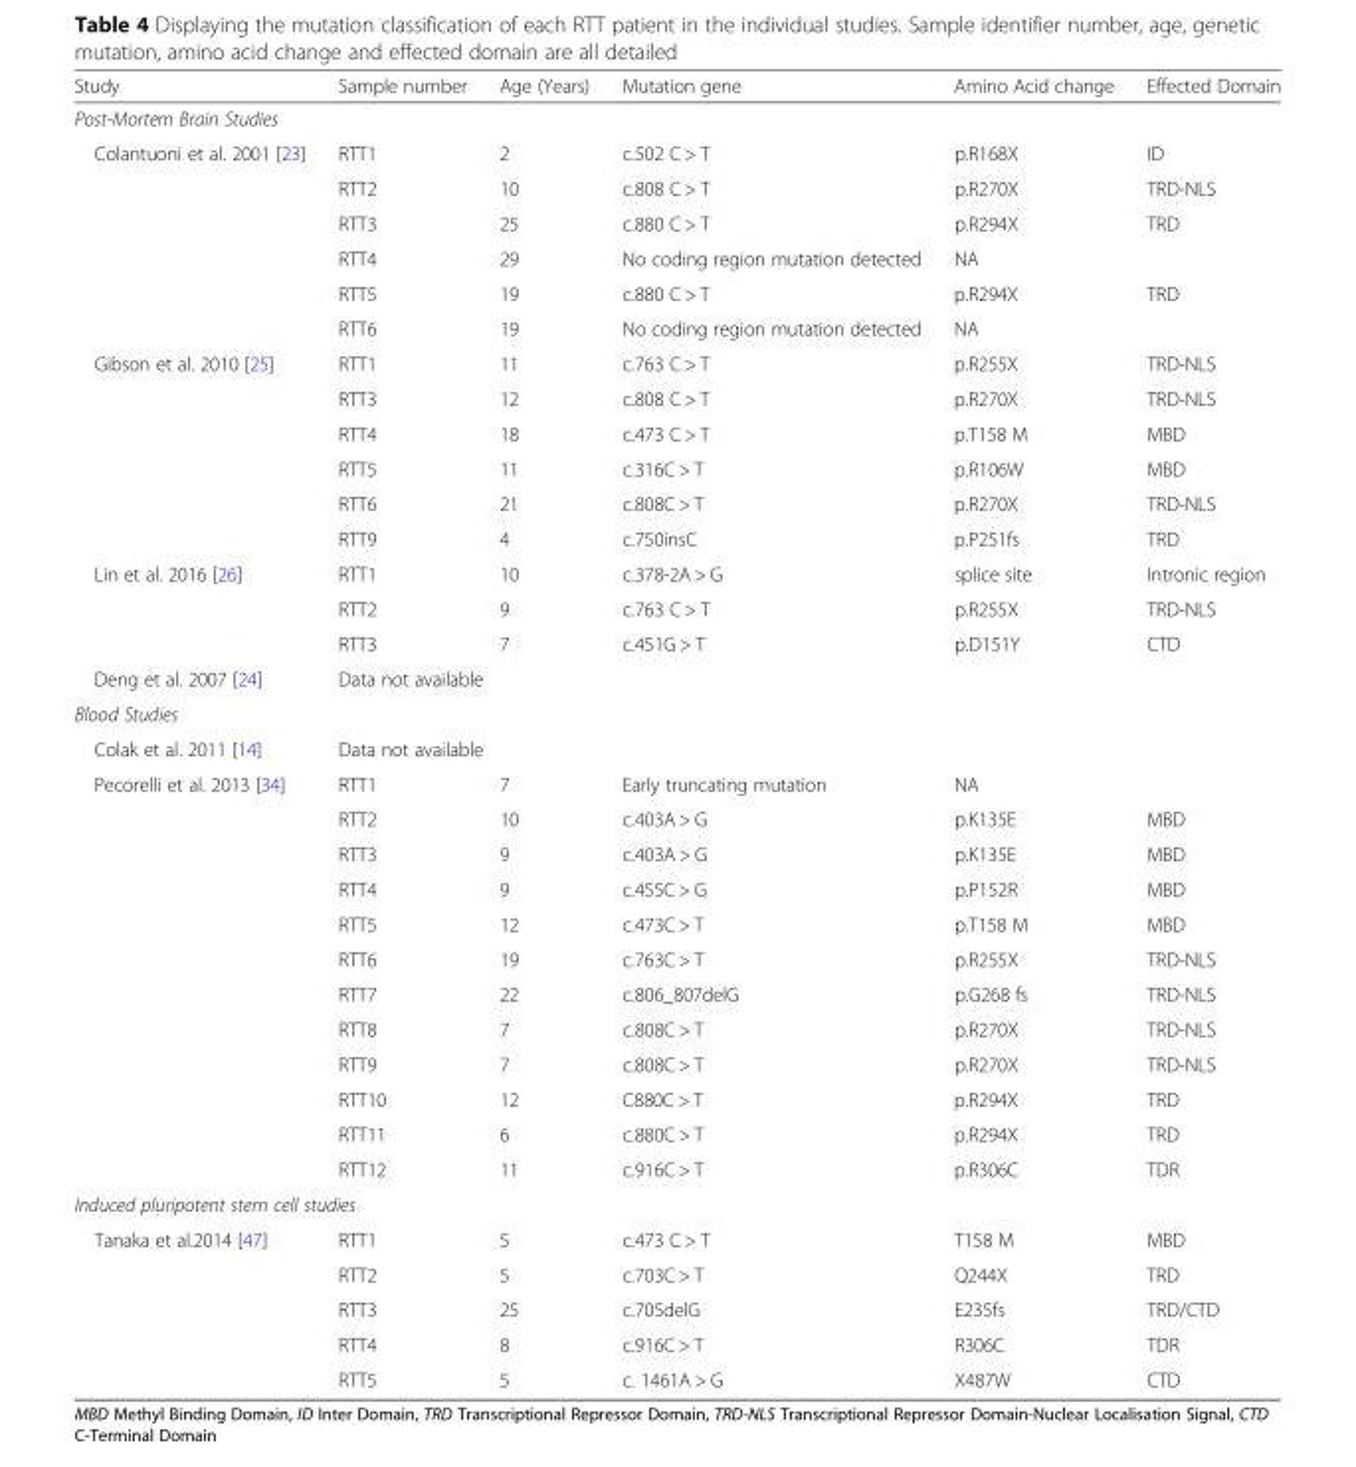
<table><thead><tr><td>Study</td><td>Sample number</td><td>Age (Years)</td><td>Mutation gene</td><td>Amino Acid change</td><td>Effected Domain</td></tr></thead><tbody><tr><td colspan="6">Post-Mortem Brain Studies</td></tr><tr><td rowspan="6">Colantuoni et al. 2001 [23]</td><td>RTT1</td><td>2</td><td>c.502 C &gt; T</td><td>p.R168X</td><td>ID</td></tr><tr><td>RTT2</td><td>10</td><td>c.808 C &gt; T</td><td>p.R270X</td><td>TRD-NLS</td></tr><tr><td>RTT3</td><td>25</td><td>c.880 C &gt; T</td><td>p.R294X</td><td>TRD</td></tr><tr><td>RTT4</td><td>29</td><td>No coding region mutation detected</td><td>NA</td><td></td></tr><tr><td>RTT5</td><td>19</td><td>c.880 C &gt; T</td><td>p.R294X</td><td>TRD</td></tr><tr><td>RTT6</td><td>19</td><td>No coding region mutation detected</td><td>NA</td><td></td></tr><tr><td rowspan="6">Gibson et al. 2010 [25]</td><td>RTT1</td><td>11</td><td>c.763 C &gt; T</td><td>p.R255X</td><td>TRD-NLS</td></tr><tr><td>RTT3</td><td>12</td><td>c.808 C &gt; T</td><td>p.R270X</td><td>TRD-NLS</td></tr><tr><td>RTT4</td><td>18</td><td>c.473 C &gt; T</td><td>p.T158 M</td><td>MBD</td></tr><tr><td>RTT5</td><td>11</td><td>c.316C &gt; T</td><td>p.R106W</td><td>MBD</td></tr><tr><td>RTT6</td><td>21</td><td>c.808C &gt; T</td><td>p.R270X</td><td>TRD-NLS</td></tr><tr><td>RTT9</td><td>4</td><td>c.750insC</td><td>p.P251fs</td><td>TRD</td></tr><tr><td rowspan="3">Lin et al. 2016 [26]</td><td>RTT1</td><td>10</td><td>c.378-2A &gt; G</td><td>splice site</td><td>Intronic region</td></tr><tr><td>RTT2</td><td>9</td><td>c.763 C &gt; T</td><td>p.R255X</td><td>TRD-NLS</td></tr><tr><td>RTT3</td><td>7</td><td>c.451G &gt; T</td><td>p.D151Y</td><td>CTD</td></tr><tr><td>Deng et al. 2007 [24]</td><td colspan="5">Data not available</td></tr><tr><td colspan="6">Blood Studies</td></tr><tr><td>Colak et al. 2011 [14]</td><td colspan="5">Data not available</td></tr><tr><td rowspan="12">Pecorelli et al. 2013 [34]</td><td>RTT1</td><td>7</td><td>Early truncating mutation</td><td>NA</td><td></td></tr><tr><td>RTT2</td><td>10</td><td>c.403A &gt; G</td><td>p.K135E</td><td>MBD</td></tr><tr><td>RTT3</td><td>9</td><td>c.403A &gt; G</td><td>p.K135E</td><td>MBD</td></tr><tr><td>RTT4</td><td>9</td><td>c.455C &gt; G</td><td>p.P152R</td><td>MBD</td></tr><tr><td>RTT5</td><td>12</td><td>c.473C &gt; T</td><td>p.T158 M</td><td>MBD</td></tr><tr><td>RTT6</td><td>19</td><td>c.763C &gt; T</td><td>p.R255X</td><td>TRD-NLS</td></tr><tr><td>RTT7</td><td>22</td><td>c.806_807delG</td><td>p.G268 fs</td><td>TRD-NLS</td></tr><tr><td>RTT8</td><td>7</td><td>c.808C &gt; T</td><td>p.R270X</td><td>TRD-NLS</td></tr><tr><td>RTT9</td><td>7</td><td>c.808C &gt; T</td><td>p.R270X</td><td>TRD-NLS</td></tr><tr><td>RTT10</td><td>12</td><td>C880C &gt; T</td><td>p.R294X</td><td>TRD</td></tr><tr><td>RTT11</td><td>6</td><td>c.880C &gt; T</td><td>p.R294X</td><td>TRD</td></tr><tr><td>RTT12</td><td>11</td><td>c.916C &gt; T</td><td>p.R306C</td><td>TDR</td></tr><tr><td colspan="6">Induced pluripotent stem cell studies</td></tr><tr><td rowspan="5">Tanaka et al.2014 [47]</td><td>RTT1</td><td>5</td><td>c.473 C &gt; T</td><td>T158 M</td><td>MBD</td></tr><tr><td>RTT2</td><td>5</td><td>c.703C &gt; T</td><td>Q244X</td><td>TRD</td></tr><tr><td>RTT3</td><td>25</td><td>c.705delG</td><td>E235fs</td><td>TRD/CTD</td></tr><tr><td>RTT4</td><td>8</td><td>c.916C &gt; T</td><td>R306C</td><td>TDR</td></tr><tr><td>RTT5</td><td>5</td><td>c. 1461A &gt; G</td><td>X487W</td><td>CTD</td></tr></tbody></table>